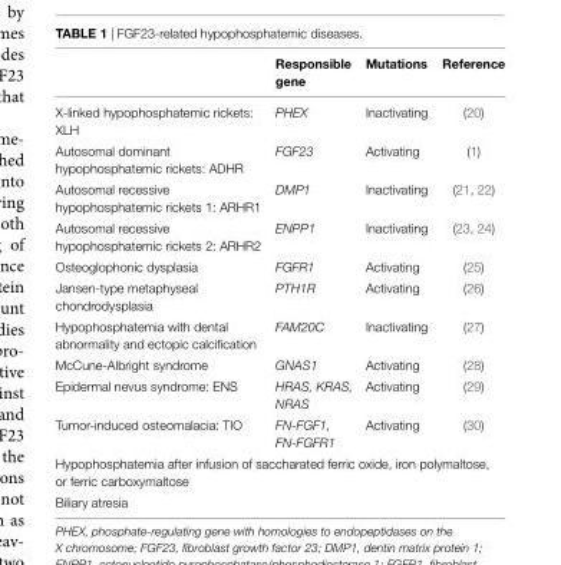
<table><thead><tr><td></td><td>Responsible gene</td><td>Mutations</td><td>Reference</td></tr></thead><tbody><tr><td>X-linked hypophosphatemic rickets: XLH</td><td>PHEX</td><td>Inactivating</td><td>(20)</td></tr><tr><td>Autosomal dominant hypophosphatemic rickets: ADHR</td><td>FGF23</td><td>Activating</td><td>(1)</td></tr><tr><td>Autosomal recessive hypophosphatemic rickets 1: ARHR1</td><td>DMP1</td><td>Inactivating</td><td>(21, 22)</td></tr><tr><td>Autosomal recessive hypophosphatemic rickets 2: ARHR2</td><td>ENPP1</td><td>Inactivating</td><td>(23, 24)</td></tr><tr><td>Osteoglophonic dysplasia</td><td>FGFR1</td><td>Activating</td><td>(25)</td></tr><tr><td>Jansen-type metaphyseal chondrodysplasia</td><td>PTH1R</td><td>Activating</td><td>(26)</td></tr><tr><td>Hypophosphatemia with dental abnormality and ectopic calcification</td><td>FAM20C</td><td>Inactivating</td><td>(27)</td></tr><tr><td>McCune-Albright syndrome</td><td>GNAS1</td><td>Activating</td><td>(28)</td></tr><tr><td>Epidermal nevus syndrome: ENS</td><td>HRAS, KRAS, NRAS</td><td>Activating</td><td>(29)</td></tr><tr><td>Tumor-induced osteomalacia: TIO</td><td>FN-FGF1, FN-FGFR1</td><td>Activating</td><td>(30)</td></tr><tr><td colspan="4">Hypophosphatemia after infusion of saccharated ferric oxide, iron polymaltose, or ferric carboxymaltose</td></tr><tr><td colspan="4">Biliary atresia</td></tr></tbody></table>